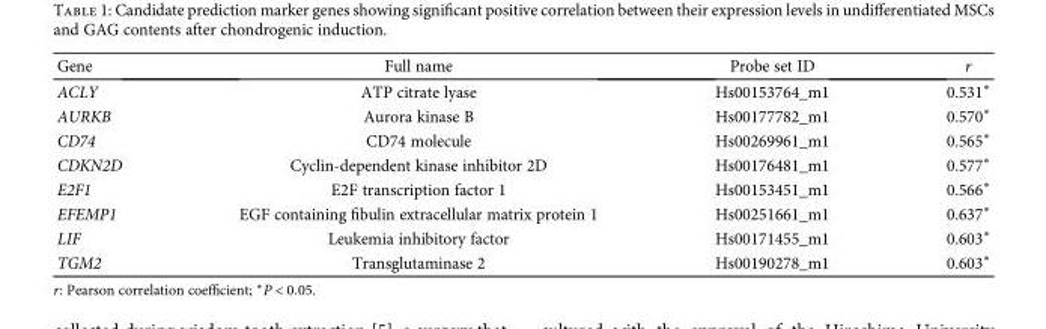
<table><thead><tr><td>Gene</td><td>Full name</td><td>Probe set ID</td><td>r</td></tr></thead><tbody><tr><td>ACLY</td><td>ATP citrate lyase</td><td>Hs00153764_m1</td><td>0.531∗</td></tr><tr><td>AURKB</td><td>Aurora kinase B</td><td>Hs00177782_m1</td><td>0.570∗</td></tr><tr><td>CD74</td><td>CD74 molecule</td><td>Hs00269961_m1</td><td>0.565∗</td></tr><tr><td>CDKN2D</td><td>Cyclin-dependent kinase inhibitor 2D</td><td>Hs00176481_m1</td><td>0.577∗</td></tr><tr><td>E2F1</td><td>E2F transcription factor 1</td><td>Hs00153451_m1</td><td>0.566∗</td></tr><tr><td>EFEMP1</td><td>EGF containing fibulin extracellular matrix protein 1</td><td>Hs00251661_m1</td><td>0.637∗</td></tr><tr><td>LIF</td><td>Leukemia inhibitory factor</td><td>Hs00171455_m1</td><td>0.603∗</td></tr><tr><td>TGM2</td><td>Transglutaminase 2</td><td>Hs00190278_m1</td><td>0.603∗</td></tr></tbody></table>